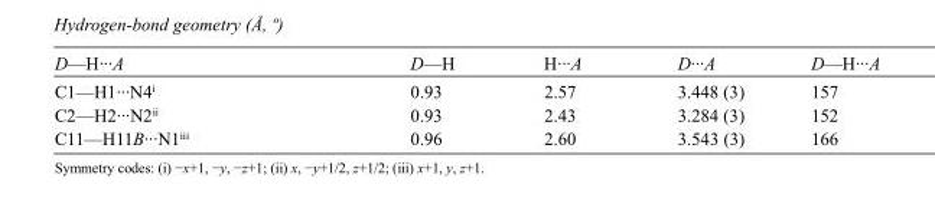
<table><tbody><tr><td>D—H···A</td><td>D—H</td><td>H···A</td><td>D···A</td><td>D—H···A</td></tr><tr><td>C1—H1···N4<sup>i</sup></td><td>0.93</td><td>2.57</td><td>3.448 (3)</td><td>157</td></tr><tr><td>C2—H2···N2<sup>ii</sup></td><td>0.93</td><td>2.43</td><td>3.284 (3)</td><td>152</td></tr><tr><td>C11—H11B···N1<sup>iii</sup></td><td>0.96</td><td>2.60</td><td>3.543 (3)</td><td>166</td></tr></tbody></table>